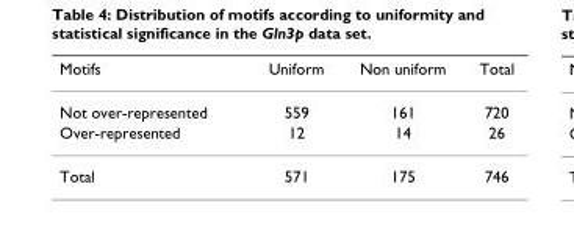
<table><thead><tr><td>Motifs</td><td>Uniform</td><td>Non uniform</td><td>Total</td></tr></thead><tbody><tr><td>Not over-represented</td><td>559</td><td>161</td><td>720</td></tr><tr><td>Over-represented</td><td>12</td><td>14</td><td>26</td></tr><tr><td>Total</td><td>571</td><td>175</td><td>746</td></tr></tbody></table>